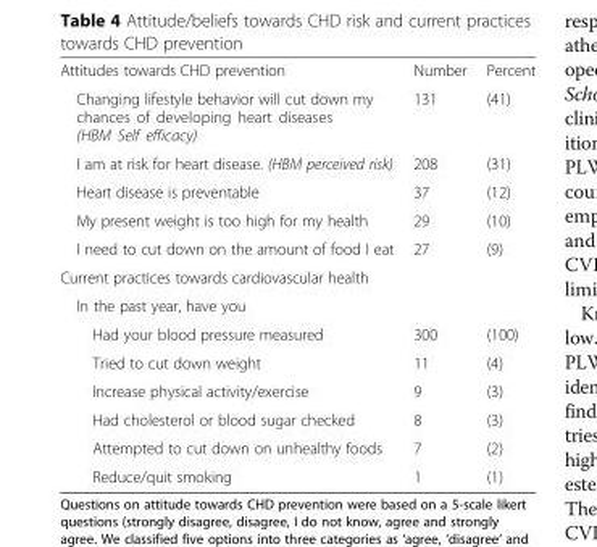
<table><tbody><tr><td>Attitudes towards CHD prevention</td><td>Number</td><td>Percent</td></tr><tr><td>Changing lifestyle behavior will cut down my chances of developing heart diseases (HBM Self efficacy)</td><td>131</td><td>(41)</td></tr><tr><td>I am at risk for heart disease. (HBM perceived risk)</td><td>208</td><td>(31)</td></tr><tr><td>Heart disease is preventable</td><td>37</td><td>(12)</td></tr><tr><td>My present weight is too high for my health</td><td>29</td><td>(10)</td></tr><tr><td>I need to cut down on the amount of food I eat</td><td>27</td><td>(9)</td></tr><tr><td colspan="3">Current practices towards cardiovascular health</td></tr><tr><td colspan="3">In the past year, have you</td></tr><tr><td>Had your blood pressure measured</td><td>300</td><td>(100)</td></tr><tr><td>Tried to cut down weight</td><td>11</td><td>(4)</td></tr><tr><td>Increase physical activity/exercise</td><td>9</td><td>(3)</td></tr><tr><td>Had cholesterol or blood sugar checked</td><td>8</td><td>(3)</td></tr><tr><td>Attempted to cut down on unhealthy foods</td><td>7</td><td>(2)</td></tr><tr><td>Reduce/quit smoking</td><td>1</td><td>(1)</td></tr></tbody></table>